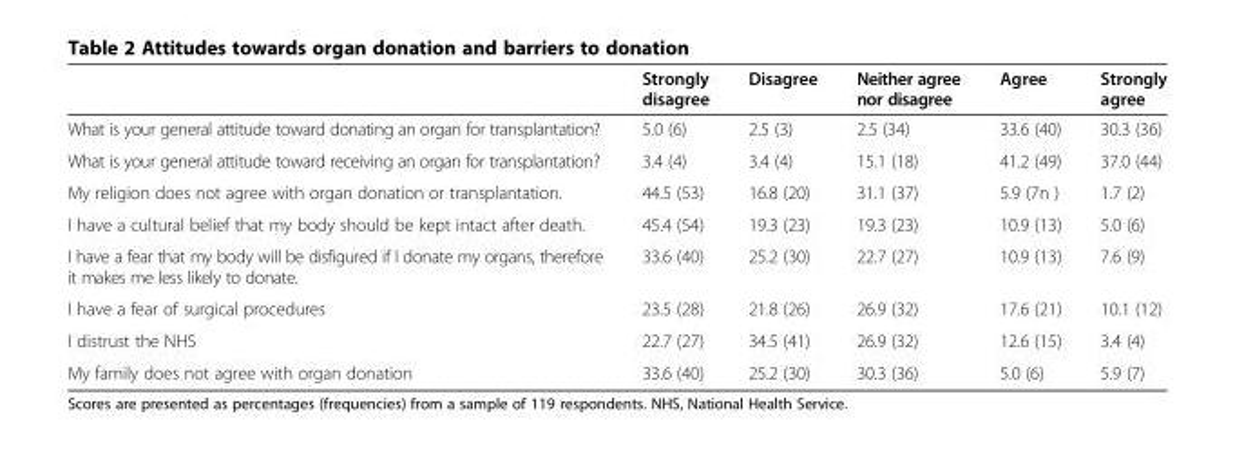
<table><thead><tr><td></td><td>Strongly disagree</td><td>Disagree</td><td>Neither agree nor disagree</td><td>Agree</td><td>Strongly agree</td></tr></thead><tbody><tr><td>What is your general attitude toward donating an organ for transplantation?</td><td>5.0 (6)</td><td>2.5 (3)</td><td>2.5 (34)</td><td>33.6 (40)</td><td>30.3 (36)</td></tr><tr><td>What is your general attitude toward receiving an organ for transplantation?</td><td>3.4 (4)</td><td>3.4 (4)</td><td>15.1 (18)</td><td>41.2 (49)</td><td>37.0 (44)</td></tr><tr><td>My religion does not agree with organ donation or transplantation.</td><td>44.5 (53)</td><td>16.8 (20)</td><td>31.1 (37)</td><td>5.9 (7n )</td><td>1.7 (2)</td></tr><tr><td>I have a cultural belief that my body should be kept intact after death.</td><td>45.4 (54)</td><td>19.3 (23)</td><td>19.3 (23)</td><td>10.9 (13)</td><td>5.0 (6)</td></tr><tr><td>I have a fear that my body will be disfigured if I donate my organs, therefore it makes me less likely to donate.</td><td>33.6 (40)</td><td>25.2 (30)</td><td>22.7 (27)</td><td>10.9 (13)</td><td>7.6 (9)</td></tr><tr><td>I have a fear of surgical procedures</td><td>23.5 (28)</td><td>21.8 (26)</td><td>26.9 (32)</td><td>17.6 (21)</td><td>10.1 (12)</td></tr><tr><td>I distrust the NHS</td><td>22.7 (27)</td><td>34.5 (41)</td><td>26.9 (32)</td><td>12.6 (15)</td><td>3.4 (4)</td></tr><tr><td>My family does not agree with organ donation</td><td>33.6 (40)</td><td>25.2 (30)</td><td>30.3 (36)</td><td>5.0 (6)</td><td>5.9 (7)</td></tr></tbody></table>